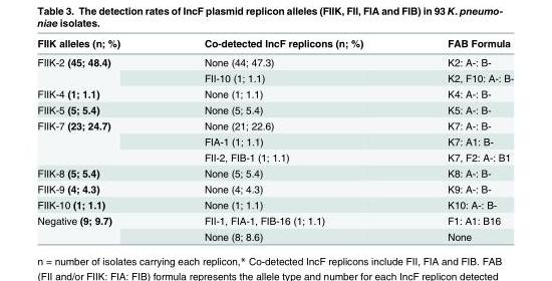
<table><thead><tr><td>FIIK alleles (n; %)</td><td>Co-detected IncF replicons (n; %)</td><td>FAB Formula</td></tr></thead><tbody><tr><td rowspan="2">FIIK-2 (45; 48.4)</td><td>None (44; 47.3)</td><td>K2: A-: B-</td></tr><tr><td>FII-10 (1; 1.1)</td><td>K2, F10: A-: B-</td></tr><tr><td>FIIK-4 (1; 1.1)</td><td>None (1; 1.1)</td><td>K4: A-: B-</td></tr><tr><td>FIIK-5 (5; 5.4)</td><td>None (5; 5.4)</td><td>K5: A-: B-</td></tr><tr><td rowspan="3">FIIK-7 (23; 24.7)</td><td>None (21; 22.6)</td><td>K7: A-: B-</td></tr><tr><td>FIA-1 (1; 1.1)</td><td>K7: A1: B-</td></tr><tr><td>FII-2, FIB-1 (1; 1.1)</td><td>K7, F2: A-: B1</td></tr><tr><td>FIIK-8 (5; 5.4)</td><td>None (5; 5.4)</td><td>K8: A-: B-</td></tr><tr><td>FIIK-9 (4; 4.3)</td><td>None (4; 4.3)</td><td>K9: A-: B-</td></tr><tr><td>FIIK-10 (1; 1.1)</td><td>None (1; 1.1)</td><td>K10: A-: B-</td></tr><tr><td rowspan="2">Negative (9; 9.7)</td><td>FII-1, FIA-1, FIB-16 (1; 1.1)</td><td>F1: A1: B16</td></tr><tr><td>None (8; 8.6)</td><td>None</td></tr></tbody></table>